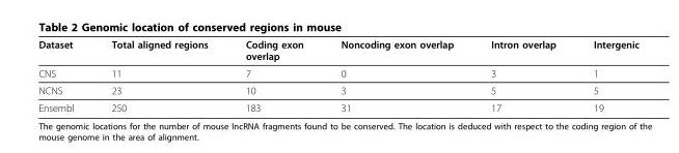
<table><thead><tr><td>Dataset</td><td>Total aligned regions</td><td>Coding exon overlap</td><td>Noncoding exon overlap</td><td>Intron overlap</td><td>Intergenic</td></tr></thead><tbody><tr><td>CNS</td><td>11</td><td>7</td><td>0</td><td>3</td><td>1</td></tr><tr><td>NCNS</td><td>23</td><td>10</td><td>3</td><td>5</td><td>5</td></tr><tr><td>Ensembl</td><td>250</td><td>183</td><td>31</td><td>17</td><td>19</td></tr></tbody></table>